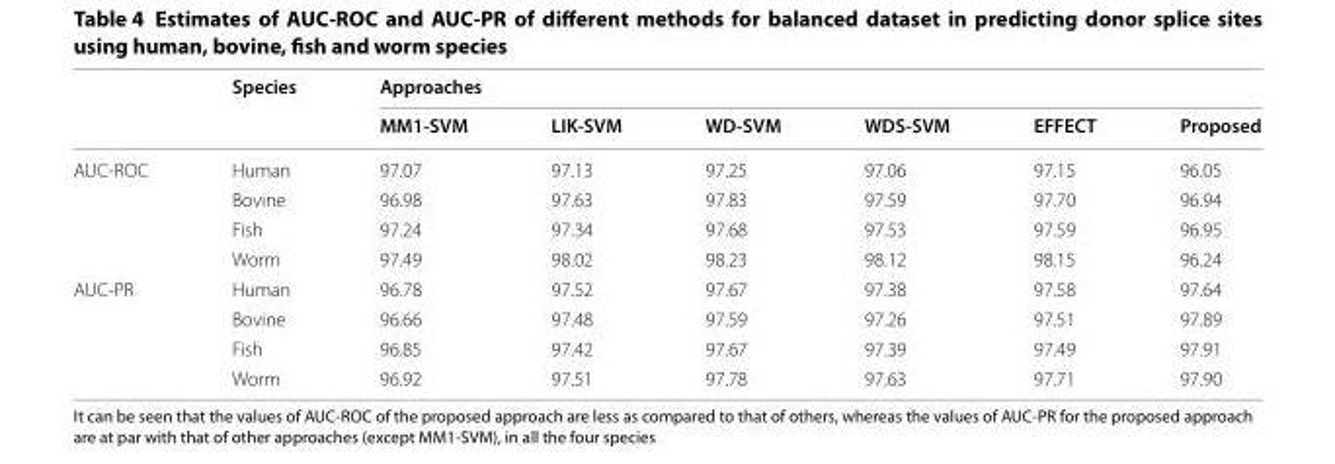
<table><thead><tr><td rowspan="2"></td><td rowspan="2">Species</td><td colspan="6">Approaches</td></tr><tr><td>MM1-SVM</td><td>LIK-SVM</td><td>WD-SVM</td><td>WDS-SVM</td><td>EFFECT</td><td>Proposed</td></tr></thead><tbody><tr><td rowspan="4">AUC-ROC</td><td>Human</td><td>97.07</td><td>97.13</td><td>97.25</td><td>97.06</td><td>97.15</td><td>96.05</td></tr><tr><td>Bovine</td><td>96.98</td><td>97.63</td><td>97.83</td><td>97.59</td><td>97.70</td><td>96.94</td></tr><tr><td>Fish</td><td>97.24</td><td>97.34</td><td>97.68</td><td>97.53</td><td>97.59</td><td>96.95</td></tr><tr><td>Worm</td><td>97.49</td><td>98.02</td><td>98.23</td><td>98.12</td><td>98.15</td><td>96.24</td></tr><tr><td rowspan="4">AUC-PR</td><td>Human</td><td>96.78</td><td>97.52</td><td>97.67</td><td>97.38</td><td>97.58</td><td>97.64</td></tr><tr><td>Bovine</td><td>96.66</td><td>97.48</td><td>97.59</td><td>97.26</td><td>97.51</td><td>97.89</td></tr><tr><td>Fish</td><td>96.85</td><td>97.42</td><td>97.67</td><td>97.39</td><td>97.49</td><td>97.91</td></tr><tr><td>Worm</td><td>96.92</td><td>97.51</td><td>97.78</td><td>97.63</td><td>97.71</td><td>97.90</td></tr></tbody></table>